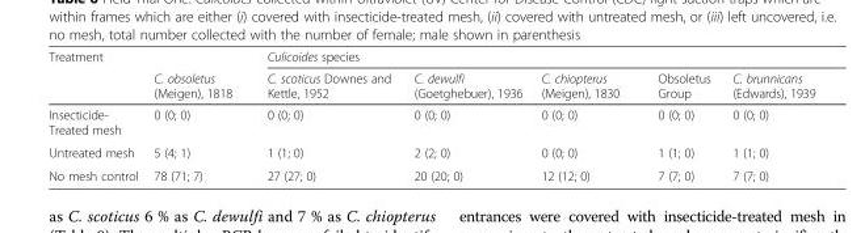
<table><thead><tr><td rowspan="2">Treatment</td><td rowspan="2">C. obsoletus (Meigen), 1818</td><td colspan="5">Culicoides species</td></tr><tr><td>C. scoticus Downes and Kettle, 1952</td><td>C. dewulfi (Goetghebuer), 1936</td><td>C. chiopterus (Meigen), 1830</td><td>Obsoletus Group</td><td>C. brunnicans (Edwards), 1939</td></tr></thead><tbody><tr><td>Insecticide- Treated mesh</td><td>0 (0; 0)</td><td>0 (0; 0)</td><td>0 (0; 0)</td><td>0 (0; 0)</td><td>0 (0; 0)</td><td>0 (0; 0)</td></tr><tr><td>Untreated mesh</td><td>5 (4; 1)</td><td>1 (1; 0)</td><td>2 (2; 0)</td><td>0 (0; 0)</td><td>1 (1; 0)</td><td>1 (1; 0)</td></tr><tr><td>No mesh control</td><td>78 (71; 7)</td><td>27 (27; 0)</td><td>20 (20; 0)</td><td>12 (12; 0)</td><td>7 (7; 0)</td><td>7 (7; 0)</td></tr></tbody></table>